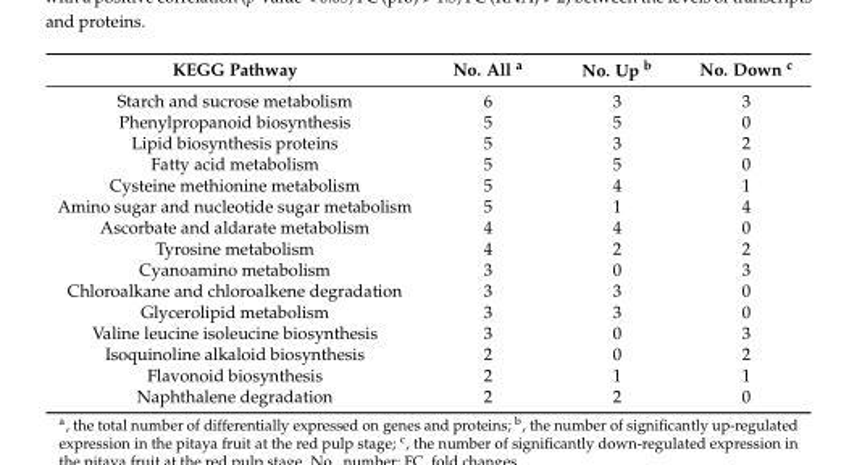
<table><thead><tr><td>KEGG Pathway</td><td>No. All <sup>a</sup></td><td>No. Up <sup>b</sup></td><td>No. Down <sup>c</sup></td></tr></thead><tbody><tr><td>Starch and sucrose metabolism</td><td>6</td><td>3</td><td>3</td></tr><tr><td>Phenylpropanoid biosynthesis</td><td>5</td><td>5</td><td>0</td></tr><tr><td>Lipid biosynthesis proteins</td><td>5</td><td>3</td><td>2</td></tr><tr><td>Fatty acid metabolism</td><td>5</td><td>5</td><td>0</td></tr><tr><td>Cysteine methionine metabolism</td><td>5</td><td>4</td><td>1</td></tr><tr><td>Amino sugar and nucleotide sugar metabolism</td><td>5</td><td>1</td><td>4</td></tr><tr><td>Ascorbate and aldarate metabolism</td><td>4</td><td>4</td><td>0</td></tr><tr><td>Tyrosine metabolism</td><td>4</td><td>2</td><td>2</td></tr><tr><td>Cyanoamino metabolism</td><td>3</td><td>0</td><td>3</td></tr><tr><td>Chloroalkane and chloroalkene degradation</td><td>3</td><td>3</td><td>0</td></tr><tr><td>Glycerolipid metabolism</td><td>3</td><td>3</td><td>0</td></tr><tr><td>Valine leucine isoleucine biosynthesis</td><td>3</td><td>0</td><td>3</td></tr><tr><td>Isoquinoline alkaloid biosynthesis</td><td>2</td><td>0</td><td>2</td></tr><tr><td>Flavonoid biosynthesis</td><td>2</td><td>1</td><td>1</td></tr><tr><td>Naphthalene degradation</td><td>2</td><td>2</td><td>0</td></tr></tbody></table>